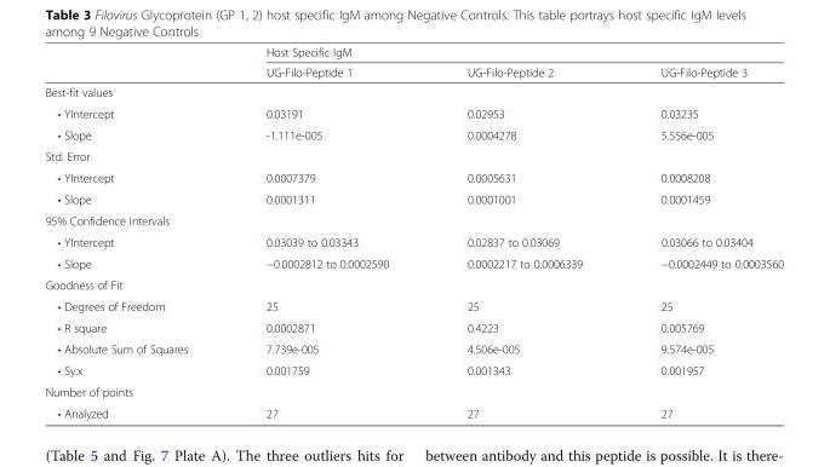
<table><thead><tr><td rowspan="2"></td><td colspan="3">Host Specific IgM</td></tr><tr><td>UG-Filo-Peptide 1</td><td>UG-Filo-Peptide 2</td><td>UG-Filo-Peptide 3</td></tr></thead><tbody><tr><td colspan="4">Best-fit values</td></tr><tr><td>• YIntercept</td><td>0.03191</td><td>0.02953</td><td>0.03235</td></tr><tr><td>• Slope</td><td>-1.111e-005</td><td>0.0004278</td><td>5.556e-005</td></tr><tr><td colspan="4">Std. Error</td></tr><tr><td>• YIntercept</td><td>0.0007379</td><td>0.0005631</td><td>0.0008208</td></tr><tr><td>• Slope</td><td>0.0001311</td><td>0.0001001</td><td>0.0001459</td></tr><tr><td colspan="4">95% Confidence Intervals</td></tr><tr><td>• YIntercept</td><td>0.03039 to 0.03343</td><td>0.02837 to 0.03069</td><td>0.03066 to 0.03404</td></tr><tr><td>• Slope</td><td>−0.0002812 to 0.0002590</td><td>0.0002217 to 0.0006339</td><td>−0.0002449 to 0.0003560</td></tr><tr><td colspan="4">Goodness of Fit</td></tr><tr><td>• Degrees of Freedom</td><td>25</td><td>25</td><td>25</td></tr><tr><td>• R square</td><td>0.0002871</td><td>0.4223</td><td>0.005769</td></tr><tr><td>• Absolute Sum of Squares</td><td>7.739e-005</td><td>4.506e-005</td><td>9.574e-005</td></tr><tr><td>• Sy.x</td><td>0.001759</td><td>0.001343</td><td>0.001957</td></tr><tr><td colspan="4">Number of points</td></tr><tr><td>• Analyzed</td><td>27</td><td>27</td><td>27</td></tr></tbody></table>